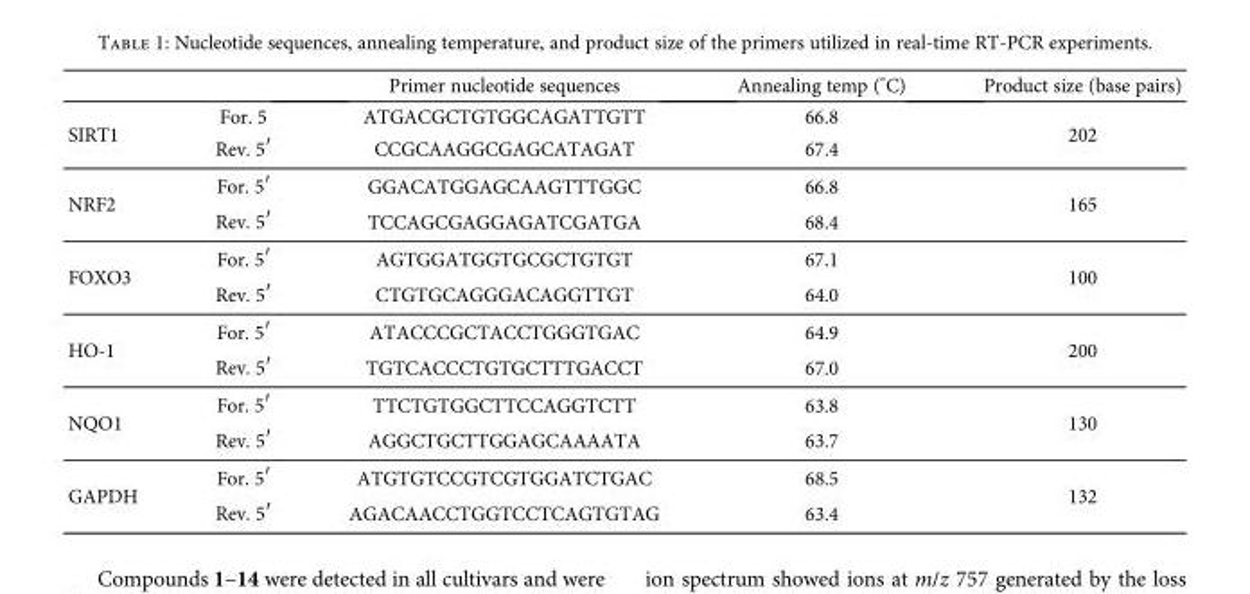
<table><thead><tr><td></td><td></td><td>Primer nucleotide sequences</td><td>Annealing temp (°C)</td><td>Product size (base pairs)</td></tr></thead><tbody><tr><td rowspan="2">SIRT1</td><td>For. 5</td><td>ATGACGCTGTGGCAGATTGTT</td><td>66.8</td><td rowspan="2">202</td></tr><tr><td>Rev. 5′</td><td>CCGCAAGGCGAGCATAGAT</td><td>67.4</td></tr><tr><td rowspan="2">NRF2</td><td>For. 5′</td><td>GGACATGGAGCAAGTTTGGC</td><td>66.8</td><td rowspan="2">165</td></tr><tr><td>Rev. 5′</td><td>TCCAGCGAGGAGATCGATGA</td><td>68.4</td></tr><tr><td rowspan="2">FOXO3</td><td>For. 5′</td><td>AGTGGATGGTGCGCTGTGT</td><td>67.1</td><td rowspan="2">100</td></tr><tr><td>Rev. 5′</td><td>CTGTGCAGGGACAGGTTGT</td><td>64.0</td></tr><tr><td rowspan="2">HO-1</td><td>For. 5′</td><td>ATACCCGCTACCTGGGTGAC</td><td>64.9</td><td rowspan="2">200</td></tr><tr><td>Rev. 5′</td><td>TGTCACCCTGTGCTTTGACCT</td><td>67.0</td></tr><tr><td rowspan="2">NQO1</td><td>For. 5′</td><td>TTCTGTGGCTTCCAGGTCTT</td><td>63.8</td><td rowspan="2">130</td></tr><tr><td>Rev. 5′</td><td>AGGCTGCTTGGAGCAAAATA</td><td>63.7</td></tr><tr><td rowspan="2">GAPDH</td><td>For. 5′</td><td>ATGTGTCCGTCGTGGATCTGAC</td><td>68.5</td><td rowspan="2">132</td></tr><tr><td>Rev. 5′</td><td>AGACAACCTGGTCCTCAGTGTAG</td><td>63.4</td></tr></tbody></table>